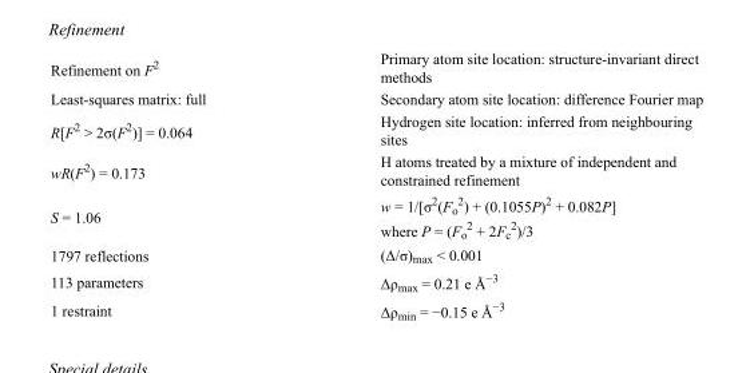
<table><tbody><tr><td>Refinement on F<sup>2</sup></td><td>Primary atom site location: structure-invariant direct methods</td></tr><tr><td>Least-squares matrix: full</td><td>Secondary atom site location: difference Fourier map</td></tr><tr><td>R[F<sup>2</sup> &gt; 2σ(F<sup>2</sup>)] = 0.064</td><td>Hydrogen site location: inferred from neighbouring sites</td></tr><tr><td>wR(F<sup>2</sup>) = 0.173</td><td>H atoms treated by a mixture of independent and constrained refinement</td></tr><tr><td>S = 1.06</td><td>w = 1/[σ<sup>2</sup>(F<sub>o</sub> <sup>2</sup>) + (0.1055P)<sup>2</sup> + 0.082P] where P = (F<sub>o</sub> <sup>2</sup> + 2F<sub>c</sub> <sup>2</sup>)/3</td></tr><tr><td>1797 reflections</td><td>(Δ/σ)<sub>max</sub> &lt; 0.001</td></tr><tr><td>113 parameters</td><td>Δρ<sub>max</sub> = 0.21 e Å<sup>−3</sup></td></tr><tr><td>1 restraint</td><td>Δρ<sub>min</sub> = −0.15 e Å<sup>−3</sup></td></tr></tbody></table>